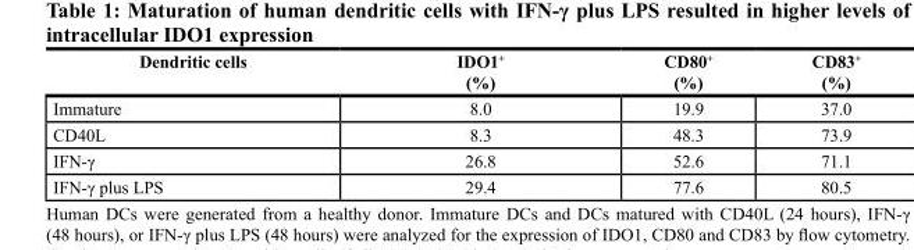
<table><thead><tr><td>Dendritic cells</td><td>IDO1<sup>+</sup> (%)</td><td>CD80<sup>+</sup> (%)</td><td>CD83<sup>+</sup> (%)</td></tr></thead><tbody><tr><td>Immature</td><td>8.0</td><td>19.9</td><td>37.0</td></tr><tr><td>CD40L</td><td>8.3</td><td>48.3</td><td>73.9</td></tr><tr><td>IFN-γ</td><td>26.8</td><td>52.6</td><td>71.1</td></tr><tr><td>IFN-γ plus LPS</td><td>29.4</td><td>77.6</td><td>80.5</td></tr></tbody></table>